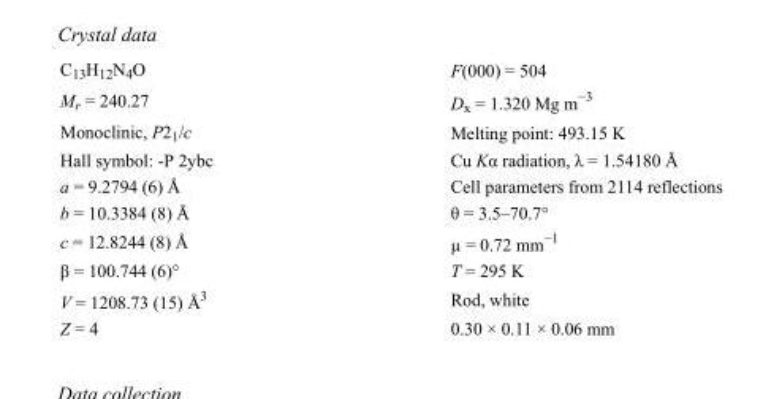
<table><tbody><tr><td>C<sub>13</sub>H<sub>12</sub>N<sub>4</sub>O</td><td>F(000) = 504</td></tr><tr><td>M<sub>r</sub> = 240.27</td><td>D<sub>x</sub> = 1.320 Mg m<sup>−3</sup></td></tr><tr><td>Monoclinic, P2<sub>1</sub>/c</td><td>Melting point: 493.15 K</td></tr><tr><td>Hall symbol: -P 2ybc</td><td>Cu Kα radiation, λ = 1.54180 Å</td></tr><tr><td>a = 9.2794 (6) Å</td><td>Cell parameters from 2114 reflections</td></tr><tr><td>b = 10.3384 (8) Å</td><td>θ = 3.5–70.7°</td></tr><tr><td>c = 12.8244 (8) Å</td><td>µ = 0.72 mm<sup>−1</sup></td></tr><tr><td>β = 100.744 (6)°</td><td>T = 295 K</td></tr><tr><td>V = 1208.73 (15) Å<sup>3</sup></td><td>Rod, white</td></tr><tr><td>Z = 4</td><td>0.30 × 0.11 × 0.06 mm</td></tr></tbody></table>